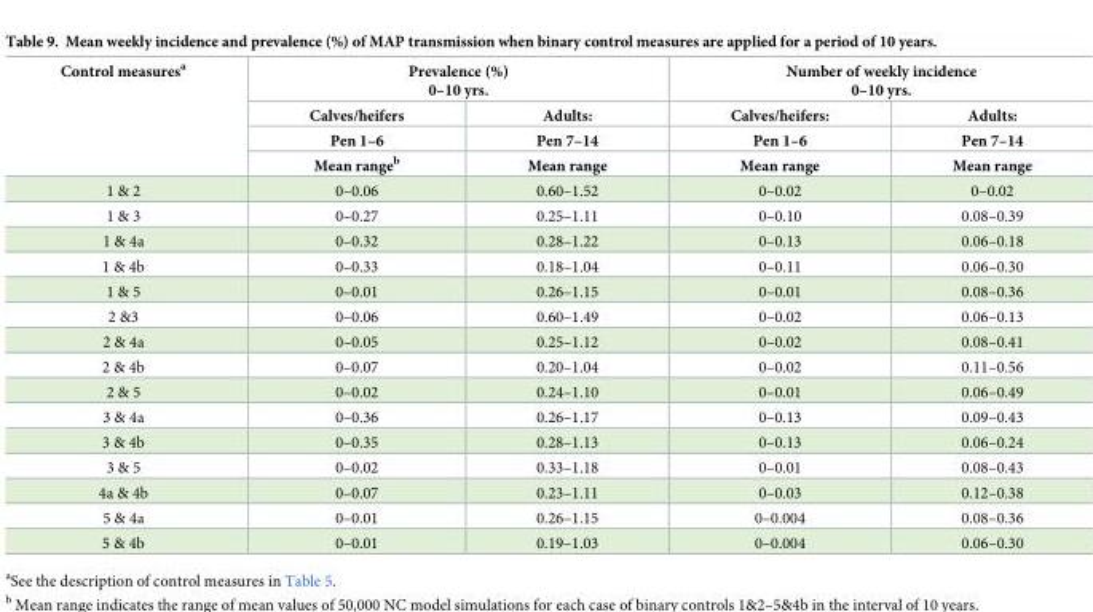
<table><thead><tr><td rowspan="4">Control measures<sup>a</sup></td><td colspan="2">Prevalence (%) 0–10 yrs.</td><td colspan="2">Number of weekly incidence 0–10 yrs.</td></tr><tr><td rowspan="3">Calves/heifers Pen 1–6 Mean range<sup>b</sup></td><td rowspan="3">Adults: Pen 7–14 Mean range</td><td rowspan="3">Calves/heifers: Pen 1–6 Mean range</td><td rowspan="3">Adults: Pen 7–14 Mean range</td></tr><tr></tr><tr></tr></thead><tbody><tr><td>1 &amp; 2</td><td>0–0.06</td><td>0.60–1.52</td><td>0–0.02</td><td>0–0.02</td></tr><tr><td>1 &amp; 3</td><td>0–0.27</td><td>0.25–1.11</td><td>0–0.10</td><td>0.08–0.39</td></tr><tr><td>1 &amp; 4a</td><td>0–0.32</td><td>0.28–1.22</td><td>0–0.13</td><td>0.06–0.18</td></tr><tr><td>1 &amp; 4b</td><td>0–0.33</td><td>0.18–1.04</td><td>0–0.11</td><td>0.06–0.30</td></tr><tr><td>1 &amp; 5</td><td>0–0.01</td><td>0.26–1.15</td><td>0–0.01</td><td>0.08–0.36</td></tr><tr><td>2 &amp;3</td><td>0–0.06</td><td>0.60–1.49</td><td>0–0.02</td><td>0.06–0.13</td></tr><tr><td>2 &amp; 4a</td><td>0–0.05</td><td>0.25–1.12</td><td>0–0.02</td><td>0.08–0.41</td></tr><tr><td>2 &amp; 4b</td><td>0–0.07</td><td>0.20–1.04</td><td>0–0.02</td><td>0.11–0.56</td></tr><tr><td>2 &amp; 5</td><td>0–0.02</td><td>0.24–1.10</td><td>0–0.01</td><td>0.06–0.49</td></tr><tr><td>3 &amp; 4a</td><td>0–0.36</td><td>0.26–1.17</td><td>0–0.13</td><td>0.09–0.43</td></tr><tr><td>3 &amp; 4b</td><td>0–0.35</td><td>0.28–1.13</td><td>0–0.13</td><td>0.06–0.24</td></tr><tr><td>3 &amp; 5</td><td>0–0.02</td><td>0.33–1.18</td><td>0–0.01</td><td>0.08–0.43</td></tr><tr><td>4a &amp; 4b</td><td>0–0.07</td><td>0.23–1.11</td><td>0–0.03</td><td>0.12–0.38</td></tr><tr><td>5 &amp; 4a</td><td>0–0.01</td><td>0.26–1.15</td><td>0–0.004</td><td>0.08–0.36</td></tr><tr><td>5 &amp; 4b</td><td>0–0.01</td><td>0.19–1.03</td><td>0–0.004</td><td>0.06–0.30</td></tr></tbody></table>